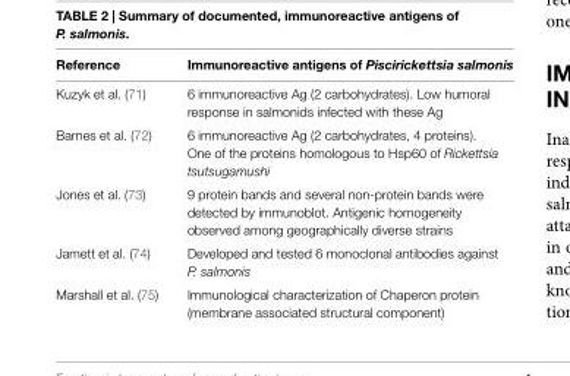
<table><thead><tr><td>Reference</td><td>immunoreactive antigens of Piscirickettsia salmonis</td></tr></thead><tbody><tr><td>Kuzyk et al. (71)</td><td>6 immunoreactive Ag (2 carbohydrates). Low humoral response in salmonids infected with these Ag</td></tr><tr><td>Barnes et al. (72)</td><td>6 immunoreactive Ag (2 carbohydrates, 4 proteins). One of the proteins homologous to Hsp60 of Rickettsia tsutsugamushi</td></tr><tr><td>Jones et al. (73)</td><td>9 protein bands and several non-protein bands were detected by immunoblot. Antigenic homogeneity observed among geographically diverse strains</td></tr><tr><td>Jamett et al. (74)</td><td>Developed and tested 6 monoclonal antibodies against P. salmonis</td></tr><tr><td>Marshall et al. (75)</td><td>Immunological characterization of Chaperon protein (membrane associated structural component)</td></tr></tbody></table>